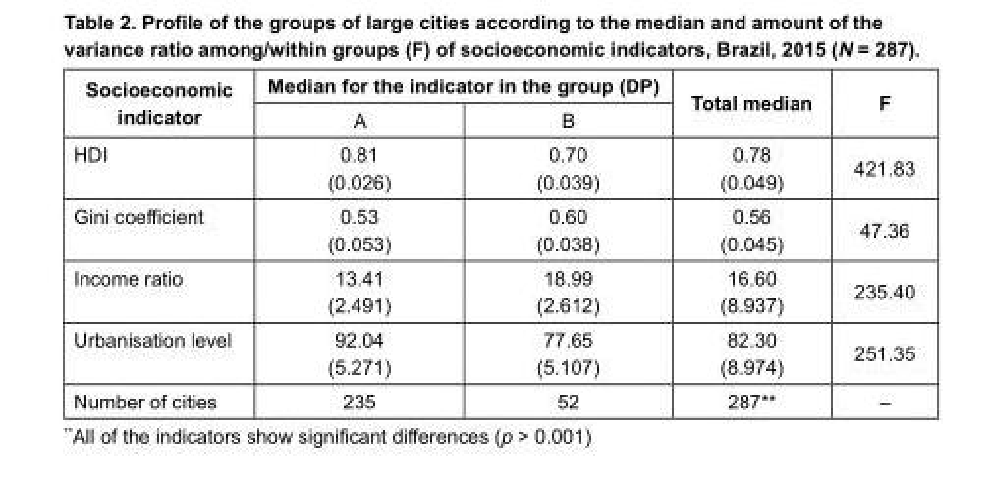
<table><thead><tr><td rowspan="2">Socioeconomic indicator</td><td colspan="2">Median for the indicator in the group (DP)</td><td rowspan="2">Total median</td><td rowspan="2">F</td></tr><tr><td>A</td><td>B</td></tr></thead><tbody><tr><td>HDI</td><td>0.81 (0.026)</td><td>0.70 (0.039)</td><td>0.78 (0.049)</td><td>421.83</td></tr><tr><td>Gini coefficient</td><td>0.53 (0.053)</td><td>0.60 (0.038)</td><td>0.56 (0.045)</td><td>47.36</td></tr><tr><td>Income ratio</td><td>13.41 (2.491)</td><td>18.99 (2.612)</td><td>16.60 (8.937)</td><td>235.40</td></tr><tr><td>Urbanisation level</td><td>92.04 (5.271)</td><td>77.65 (5.107)</td><td>82.30 (8.974)</td><td>251.35</td></tr><tr><td>Number of cities</td><td>235</td><td>52</td><td>287**</td><td>–</td></tr></tbody></table>